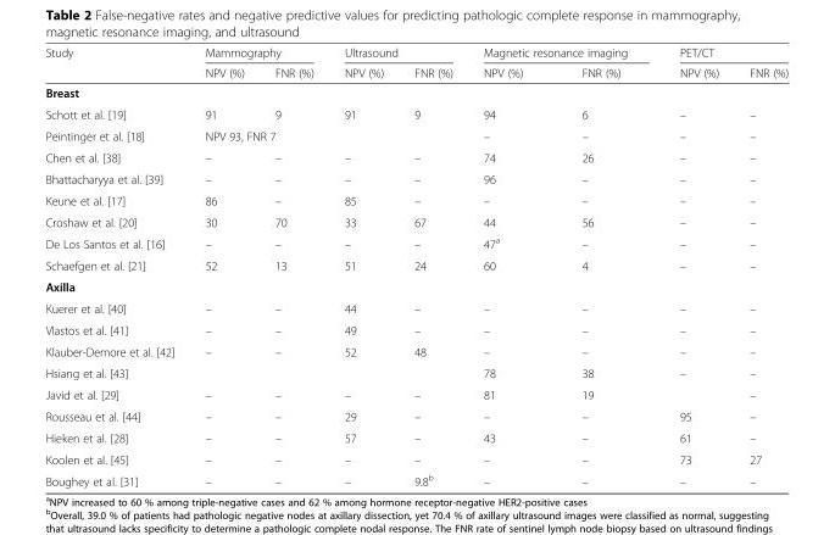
<table><thead><tr><td rowspan="2">Study</td><td colspan="2">Mammography</td><td colspan="2">Ultrasound</td><td colspan="2">Magnetic resonance imaging</td><td colspan="2">PET/CT</td></tr><tr><td>NPV (%)</td><td>FNR (%)</td><td>NPV (%)</td><td>FNR (%)</td><td>NPV (%)</td><td>FNR (%)</td><td>NPV (%)</td><td>FNR (%)</td></tr></thead><tbody><tr><td colspan="9">Breast</td></tr><tr><td>Schott et al. [19]</td><td>91</td><td>9</td><td>91</td><td>9</td><td>94</td><td>6</td><td>–</td><td>–</td></tr><tr><td>Peintinger et al. [18]</td><td colspan="4">NPV 93, FNR 7</td><td>–</td><td>–</td><td>–</td><td>–</td></tr><tr><td>Chen et al. [38]</td><td>–</td><td>–</td><td>–</td><td>–</td><td>74</td><td>26</td><td>–</td><td>–</td></tr><tr><td>Bhattacharyya et al. [39]</td><td>–</td><td>–</td><td>–</td><td>–</td><td>96</td><td>–</td><td>–</td><td>–</td></tr><tr><td>Keune et al. [17]</td><td>86</td><td>–</td><td>85</td><td>–</td><td>–</td><td>–</td><td>–</td><td>–</td></tr><tr><td>Croshaw et al. [20]</td><td>30</td><td>70</td><td>33</td><td>67</td><td>44</td><td>56</td><td>–</td><td>–</td></tr><tr><td>De Los Santos et al. [16]</td><td>–</td><td>–</td><td>–</td><td>–</td><td>47<sup>a</sup></td><td>–</td><td>–</td><td>–</td></tr><tr><td>Schaefgen et al. [21]</td><td>52</td><td>13</td><td>51</td><td>24</td><td>60</td><td>4</td><td>–</td><td>–</td></tr><tr><td colspan="9">Axilla</td></tr><tr><td>Kuerer et al. [40]</td><td>–</td><td>–</td><td>44</td><td>–</td><td>–</td><td>–</td><td>–</td><td>–</td></tr><tr><td>Vlastos et al. [41]</td><td>–</td><td>–</td><td>49</td><td>–</td><td>–</td><td>–</td><td>–</td><td>–</td></tr><tr><td>Klauber-Demore et al. [42]</td><td>–</td><td>–</td><td>52</td><td>48</td><td>–</td><td>–</td><td>–</td><td>–</td></tr><tr><td>Hsiang et al. [43]</td><td></td><td></td><td></td><td></td><td>78</td><td>38</td><td>–</td><td>–</td></tr><tr><td>Javid et al. [29]</td><td>–</td><td>–</td><td>–</td><td>–</td><td>81</td><td>19</td><td></td><td>–</td></tr><tr><td>Rousseau et al. [44]</td><td>–</td><td>–</td><td>29</td><td>–</td><td>–</td><td>–</td><td>95</td><td>–</td></tr><tr><td>Hieken et al. [28]</td><td>–</td><td>–</td><td>57</td><td>–</td><td>43</td><td>–</td><td>61</td><td>–</td></tr><tr><td>Koolen et al. [45]</td><td>–</td><td>–</td><td>–</td><td>–</td><td>–</td><td>–</td><td>73</td><td>27</td></tr><tr><td>Boughey et al. [31]</td><td>–</td><td>–</td><td>–</td><td>9.8<sup>b</sup></td><td>–</td><td>–</td><td>–</td><td>–</td></tr></tbody></table>